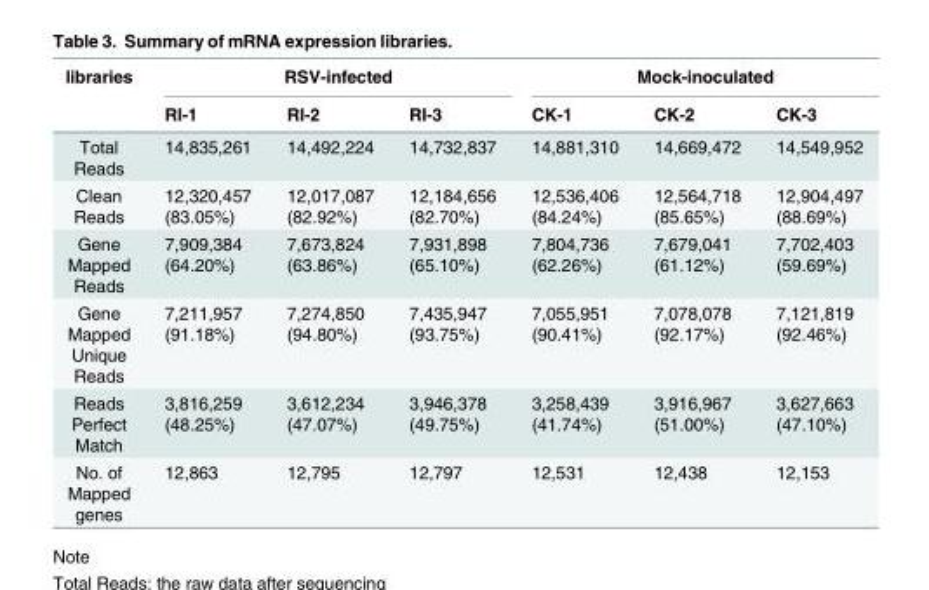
<table><thead><tr><td rowspan="2">libraries</td><td colspan="3">RSV-infected</td><td colspan="3">Mock-inoculated</td></tr><tr><td>RI-1</td><td>RI-2</td><td>RI-3</td><td>CK-1</td><td>CK-2</td><td>CK-3</td></tr></thead><tbody><tr><td>Total Reads</td><td>14,835,261</td><td>14,492,224</td><td>14,732,837</td><td>14,881,310</td><td>14,669,472</td><td>14,549,952</td></tr><tr><td>Clean Reads</td><td>12,320,457 (83.05%)</td><td>12,017,087 (82.92%)</td><td>12,184,656 (82.70%)</td><td>12,536,406 (84.24%)</td><td>12,564,718 (85.65%)</td><td>12,904,497 (88.69%)</td></tr><tr><td>Gene Mapped Reads</td><td>7,909,384 (64.20%)</td><td>7,673,824 (63.86%)</td><td>7,931,898 (65.10%)</td><td>7,804,736 (62.26%)</td><td>7,679,041 (61.12%)</td><td>7,702,403 (59.69%)</td></tr><tr><td>Gene Mapped Unique Reads</td><td>7,211,957 (91.18%)</td><td>7,274,850 (94.80%)</td><td>7,435,947 (93.75%)</td><td>7,055,951 (90.41%)</td><td>7,078,078 (92.17%)</td><td>7,121,819 (92.46%)</td></tr><tr><td>Reads Perfect Match</td><td>3,816,259 (48.25%)</td><td>3,612,234 (47.07%)</td><td>3,946,378 (49.75%)</td><td>3,258,439 (41.74%)</td><td>3,916,967 (51.00%)</td><td>3,627,663 (47.10%)</td></tr><tr><td>No. of Mapped genes</td><td>12,863</td><td>12,795</td><td>12,797</td><td>12,531</td><td>12,438</td><td>12,153</td></tr></tbody></table>